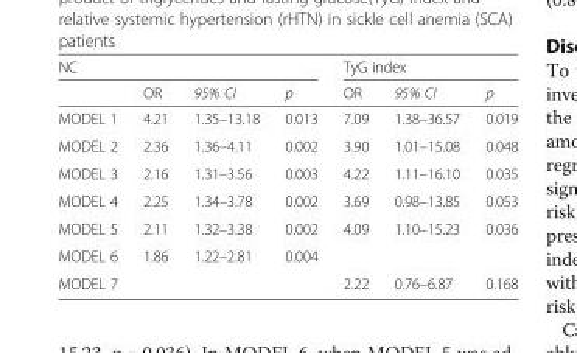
<table><thead><tr><td colspan="4">NC</td><td colspan="3">TyG index</td></tr><tr><td></td><td>OR</td><td>95% CI</td><td>p</td><td>OR</td><td>95% CI</td><td>p</td></tr></thead><tbody><tr><td>MODEL 1</td><td>4.21</td><td>1.35–13.18</td><td>0.013</td><td>7.09</td><td>1.38–36.57</td><td>0.019</td></tr><tr><td>MODEL 2</td><td>2.36</td><td>1.36–4.11</td><td>0.002</td><td>3.90</td><td>1.01–15.08</td><td>0.048</td></tr><tr><td>MODEL 3</td><td>2.16</td><td>1.31–3.56</td><td>0.003</td><td>4.22</td><td>1.11–16.10</td><td>0.035</td></tr><tr><td>MODEL 4</td><td>2.25</td><td>1.34–3.78</td><td>0.002</td><td>3.69</td><td>0.98–13.85</td><td>0.053</td></tr><tr><td>MODEL 5</td><td>2.11</td><td>1.32–3.38</td><td>0.002</td><td>4.09</td><td>1.10–15.23</td><td>0.036</td></tr><tr><td>MODEL 6</td><td>1.86</td><td>1.22–2.81</td><td>0.004</td><td colspan="3"></td></tr><tr><td>MODEL 7</td><td></td><td></td><td></td><td>2.22</td><td>0.76–6.87</td><td>0.168</td></tr></tbody></table>